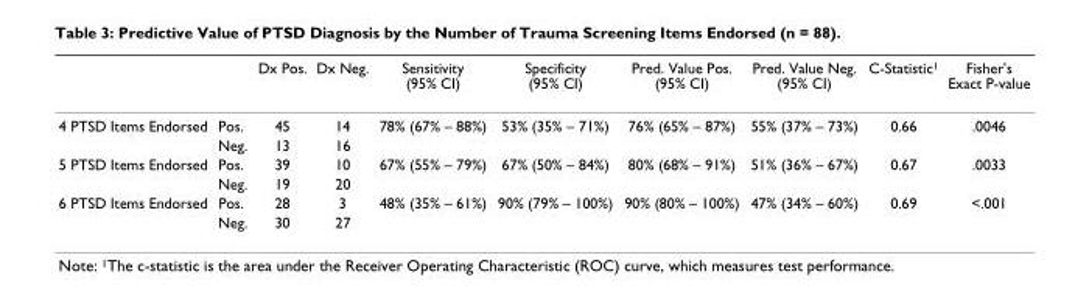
<table><thead><tr><td></td><td></td><td>Dx Pos.</td><td>Dx Neg.</td><td>Sensitivity (95% CI)</td><td>Specificity (95% CI)</td><td>Pred. Value Pos. (95% CI)</td><td>Pred. Value Neg. (95% CI)</td><td>C-Statistic<sup>1</sup></td><td>Fisher&#x27;s Exact P-value</td></tr></thead><tbody><tr><td rowspan="2">4 PTSD Items Endorsed</td><td>Pos.</td><td>45</td><td>14</td><td>78% (67% – 88%)</td><td>53% (35% – 71%)</td><td>76% (65% – 87%)</td><td>55% (37% – 73%)</td><td>0.66</td><td>.0046</td></tr><tr><td>Neg.</td><td>13</td><td>16</td><td></td><td></td><td></td><td></td><td></td><td></td></tr><tr><td rowspan="2">5 PTSD Items Endorsed</td><td>Pos.</td><td>39</td><td>10</td><td>67% (55% – 79%)</td><td>67% (50% – 84%)</td><td>80% (68% – 91%)</td><td>51% (36% – 67%)</td><td>0.67</td><td>.0033</td></tr><tr><td>Neg.</td><td>19</td><td>20</td><td></td><td></td><td></td><td></td><td></td><td></td></tr><tr><td rowspan="2">6 PTSD Items Endorsed</td><td>Pos.</td><td>28</td><td>3</td><td>48% (35% – 61%)</td><td>90% (79% – 100%)</td><td>90% (80% – 100%)</td><td>47% (34% – 60%)</td><td>0.69</td><td>&lt;.001</td></tr><tr><td>Neg.</td><td>30</td><td>27</td><td></td><td></td><td></td><td></td><td></td><td></td></tr></tbody></table>